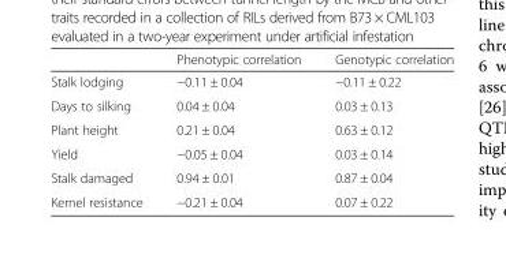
<table><thead><tr><td></td><td>Phenotypic correlation</td><td>Genotypic correlation</td></tr></thead><tbody><tr><td>Stalk lodging</td><td>−0.11 ± 0.04</td><td>−0.11 ± 0.22</td></tr><tr><td>Days to silking</td><td>0.04 ± 0.04</td><td>0.03 ± 0.13</td></tr><tr><td>Plant height</td><td>0.21 ± 0.04</td><td>0.63 ± 0.12</td></tr><tr><td>Yield</td><td>−0.05 ± 0.04</td><td>0.03 ± 0.14</td></tr><tr><td>Stalk damaged</td><td>0.94 ± 0.01</td><td>0.87 ± 0.04</td></tr><tr><td>Kernel resistance</td><td>−0.21 ± 0.04</td><td>0.07 ± 0.22</td></tr></tbody></table>